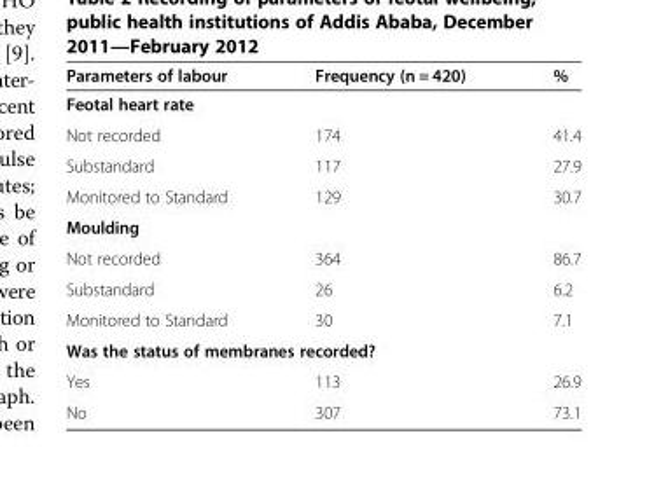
<table><thead><tr><td>Parameters of labour</td><td>Frequency (n = 420)</td><td>%</td></tr></thead><tbody><tr><td colspan="3">Feotal heart rate</td></tr><tr><td>Not recorded</td><td>174</td><td>41.4</td></tr><tr><td>Substandard</td><td>117</td><td>27.9</td></tr><tr><td>Monitored to Standard</td><td>129</td><td>30.7</td></tr><tr><td colspan="3">Moulding</td></tr><tr><td>Not recorded</td><td>364</td><td>86.7</td></tr><tr><td>Substandard</td><td>26</td><td>6.2</td></tr><tr><td>Monitored to Standard</td><td>30</td><td>7.1</td></tr><tr><td colspan="3">Was the status of membranes recorded?</td></tr><tr><td>Yes</td><td>113</td><td>26.9</td></tr><tr><td>No</td><td>307</td><td>73.1</td></tr></tbody></table>